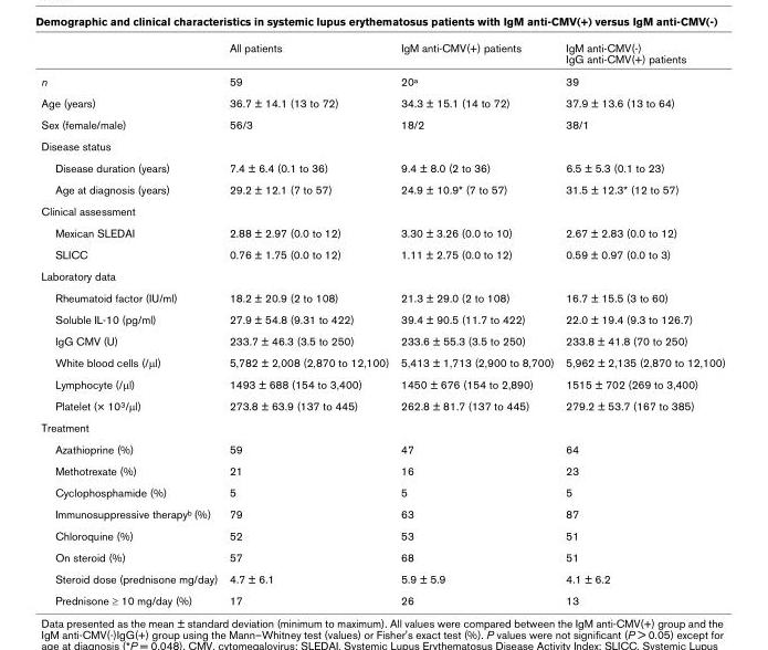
<table><thead><tr><td></td><td>All patients</td><td>IgM anti-CMV(+) patients</td><td>IgM anti-CMV(-) IgG anti-CMV(+) patients</td></tr></thead><tbody><tr><td>n</td><td>59</td><td>20<sup>a</sup></td><td>39</td></tr><tr><td>Age (years)</td><td>36.7 ± 14.1 (13 to 72)</td><td>34.3 ± 15.1 (14 to 72)</td><td>37.9 ± 13.6 (13 to 64)</td></tr><tr><td>Sex (female/male)</td><td>56/3</td><td>18/2</td><td>38/1</td></tr><tr><td colspan="4">Disease status</td></tr><tr><td>Disease duration (years)</td><td>7.4 ± 6.4 (0.1 to 36)</td><td>9.4 ± 8.0 (2 to 36)</td><td>6.5 ± 5.3 (0.1 to 23)</td></tr><tr><td>Age at diagnosis (years)</td><td>29.2 ± 12.1 (7 to 57)</td><td>24.9 ± 10.9* (7 to 57)</td><td>31.5 ± 12.3* (12 to 57)</td></tr><tr><td colspan="4">Clinical assessment</td></tr><tr><td>Mexican SLEDAI</td><td>2.88 ± 2.97 (0.0 to 12)</td><td>3.30 ± 3.26 (0.0 to 10)</td><td>2.67 ± 2.83 (0.0 to 12)</td></tr><tr><td>SLICC</td><td>0.76 ± 1.75 (0.0 to 12)</td><td>1.11 ± 2.75 (0.0 to 12)</td><td>0.59 ± 0.97 (0.0 to 3)</td></tr><tr><td colspan="4">Laboratory data</td></tr><tr><td>Rheumatoid factor (IU/ml)</td><td>18.2 ± 20.9 (2 to 108)</td><td>21.3 ± 29.0 (2 to 108)</td><td>16.7 ± 15.5 (3 to 60)</td></tr><tr><td>Soluble IL-10 (pg/ml)</td><td>27.9 ± 54.8 (9.31 to 422)</td><td>39.4 ± 90.5 (11.7 to 422)</td><td>22.0 ± 19.4 (9.3 to 126.7)</td></tr><tr><td>IgG CMV (U)</td><td>233.7 ± 46.3 (3.5 to 250)</td><td>233.6 ± 55.3 (3.5 to 250)</td><td>233.8 ± 41.8 (70 to 250)</td></tr><tr><td>White blood cells (/μl)</td><td>5,782 ± 2,008 (2,870 to 12,100)</td><td>5,413 ± 1,713 (2,900 to 8,700)</td><td>5,962 ± 2,135 (2,870 to 12,100)</td></tr><tr><td>Lymphocyte (/μl)</td><td>1493 ± 688 (154 to 3,400)</td><td>1450 ± 676 (154 to 2,890)</td><td>1515 ± 702 (269 to 3,400)</td></tr><tr><td>Platelet (× 10<sup>3</sup>/μl)</td><td>273.8 ± 63.9 (137 to 445)</td><td>262.8 ± 81.7 (137 to 445)</td><td>279.2 ± 53.7 (167 to 385)</td></tr><tr><td colspan="4">Treatment</td></tr><tr><td>Azathioprine (%)</td><td>59</td><td>47</td><td>64</td></tr><tr><td>Methotrexate (%)</td><td>21</td><td>16</td><td>23</td></tr><tr><td>Cyclophosphamide (%)</td><td>5</td><td>5</td><td>5</td></tr><tr><td>Immunosuppressive therapy<sup>b</sup> (%)</td><td>79</td><td>63</td><td>87</td></tr><tr><td>Chloroquine (%)</td><td>52</td><td>53</td><td>51</td></tr><tr><td>On steroid (%)</td><td>57</td><td>68</td><td>51</td></tr><tr><td>Steroid dose (prednisone mg/day)</td><td>4.7 ± 6.1</td><td>5.9 ± 5.9</td><td>4.1 ± 6.2</td></tr><tr><td>Prednisone ≥ 10 mg/day (%)</td><td>17</td><td>26</td><td>13</td></tr></tbody></table>